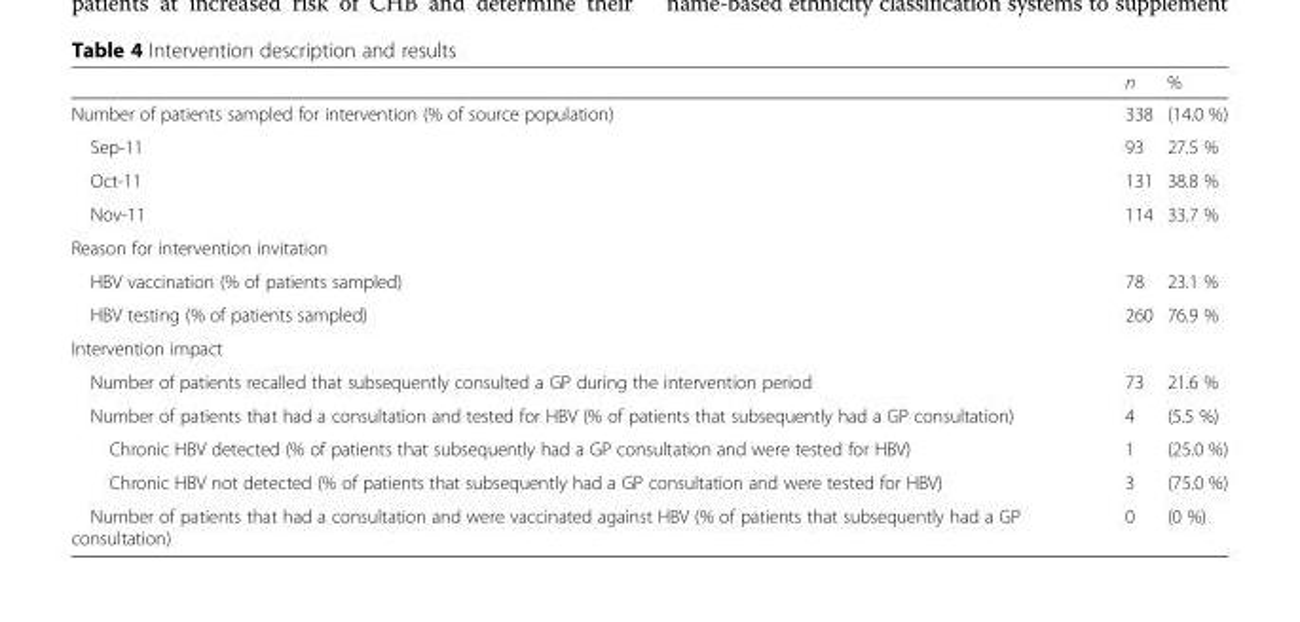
<table><thead><tr><td></td><td>n</td><td>%</td></tr></thead><tbody><tr><td>Number of patients sampled for intervention (% of source population)</td><td>338</td><td>(14.0 %)</td></tr><tr><td>Sep-11</td><td>93</td><td>27.5 %</td></tr><tr><td>Oct-11</td><td>131</td><td>38.8 %</td></tr><tr><td>Nov-11</td><td>114</td><td>33.7 %</td></tr><tr><td colspan="3">Reason for intervention invitation</td></tr><tr><td>HBV vaccination (% of patients sampled)</td><td>78</td><td>23.1 %</td></tr><tr><td>HBV testing (% of patients sampled)</td><td>260</td><td>76.9 %</td></tr><tr><td colspan="3">Intervention impact</td></tr><tr><td>Number of patients recalled that subsequently consulted a GP during the intervention period</td><td>73</td><td>21.6 %</td></tr><tr><td>Number of patients that had a consultation and tested for HBV (% of patients that subsequently had a GP consultation)</td><td>4</td><td>(5.5 %)</td></tr><tr><td>Chronic HBV detected (% of patients that subsequently had a GP consultation and were tested for HBV)</td><td>1</td><td>(25.0 %)</td></tr><tr><td>Chronic HBV not detected (% of patients that subsequently had a GP consultation and were tested for HBV)</td><td>3</td><td>(75.0 %)</td></tr><tr><td>Number of patients that had a consultation and were vaccinated against HBV (% of patients that subsequently had a GP consultation)</td><td>0</td><td>(0 %)</td></tr></tbody></table>